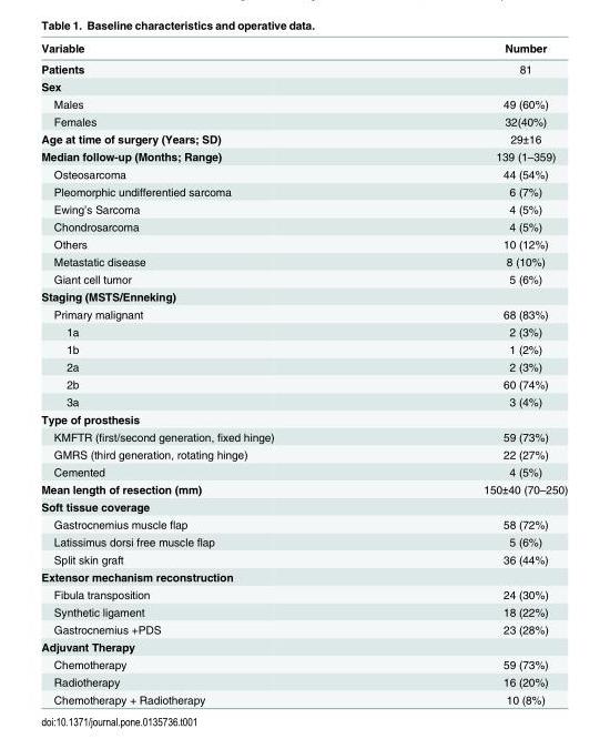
<table><thead><tr><td>Variable</td><td>Number</td></tr></thead><tbody><tr><td>Patients</td><td>81</td></tr><tr><td colspan="2">Sex</td></tr><tr><td>Males</td><td>49 (60%)</td></tr><tr><td>Females</td><td>32(40%)</td></tr><tr><td>Age at time of surgery (Years; SD)</td><td>29±16</td></tr><tr><td>Median follow-up (Months; Range)</td><td>139 (1–359)</td></tr><tr><td>Osteosarcoma</td><td>44 (54%)</td></tr><tr><td>Pleomorphic undifferentied sarcoma</td><td>6 (7%)</td></tr><tr><td>Ewing’s Sarcoma</td><td>4 (5%)</td></tr><tr><td>Chondrosarcoma</td><td>4 (5%)</td></tr><tr><td>Others</td><td>10 (12%)</td></tr><tr><td>Metastatic disease</td><td>8 (10%)</td></tr><tr><td>Giant cell tumor</td><td>5 (6%)</td></tr><tr><td colspan="2">Staging (MSTS/Enneking)</td></tr><tr><td>Primary malignant</td><td>68 (83%)</td></tr><tr><td>1a</td><td>2 (3%)</td></tr><tr><td>1b</td><td>1 (2%)</td></tr><tr><td>2a</td><td>2 (3%)</td></tr><tr><td>2b</td><td>60 (74%)</td></tr><tr><td>3a</td><td>3 (4%)</td></tr><tr><td colspan="2">Type of prosthesis</td></tr><tr><td>KMFTR (first/second generation, fixed hinge)</td><td>59 (73%)</td></tr><tr><td>GMRS (third generation, rotating hinge)</td><td>22 (27%)</td></tr><tr><td>Cemented</td><td>4 (5%)</td></tr><tr><td>Mean length of resection (mm)</td><td>150±40 (70–250)</td></tr><tr><td colspan="2">Soft tissue coverage</td></tr><tr><td>Gastrocnemius muscle flap</td><td>58 (72%)</td></tr><tr><td>Latissimus dorsi free muscle flap</td><td>5 (6%)</td></tr><tr><td>Split skin graft</td><td>36 (44%)</td></tr><tr><td colspan="2">Extensor mechanism reconstruction</td></tr><tr><td>Fibula transposition</td><td>24 (30%)</td></tr><tr><td>Synthetic ligament</td><td>18 (22%)</td></tr><tr><td>Gastrocnemius +PDS</td><td>23 (28%)</td></tr><tr><td colspan="2">Adjuvant Therapy</td></tr><tr><td>Chemotherapy</td><td>59 (73%)</td></tr><tr><td>Radiotherapy</td><td>16 (20%)</td></tr><tr><td>Chemotherapy + Radiotherapy</td><td>10 (8%)</td></tr></tbody></table>